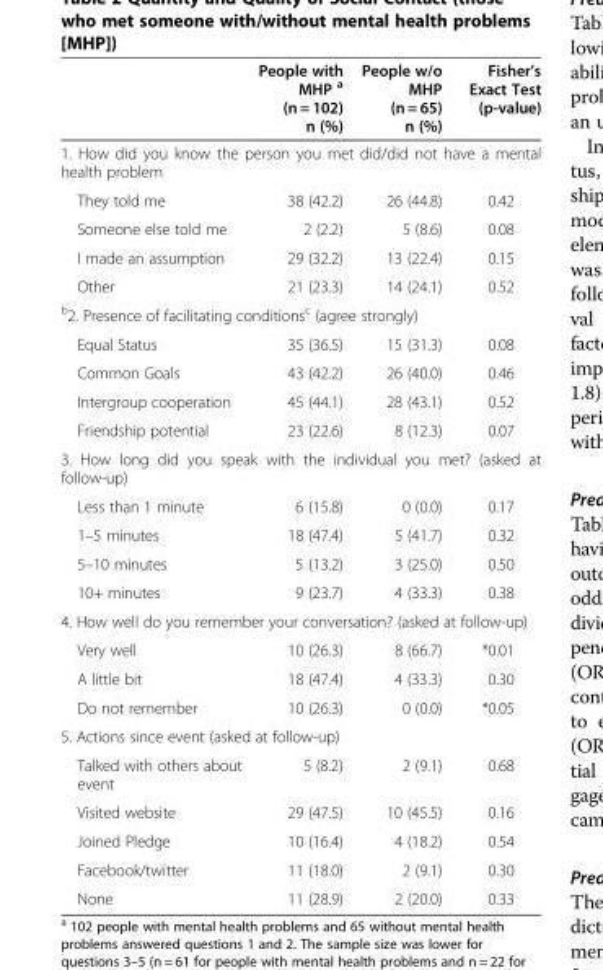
<table><thead><tr><td></td><td>People with MHP <sup>a</sup> (n = 102) n (%)</td><td>People w/o MHP (n = 65) n (%)</td><td>Fisher’s Exact Test (p-value)</td></tr></thead><tbody><tr><td colspan="4">1. How did you know the person you met did/did not have a mental health problem</td></tr><tr><td>They told me</td><td>38 (42.2)</td><td>26 (44.8)</td><td>0.42</td></tr><tr><td>Someone else told me</td><td>2 (2.2)</td><td>5 (8.6)</td><td>0.08</td></tr><tr><td>I made an assumption</td><td>29 (32.2)</td><td>13 (22.4)</td><td>0.15</td></tr><tr><td>Other</td><td>21 (23.3)</td><td>14 (24.1)</td><td>0.52</td></tr><tr><td colspan="4"><sup>b</sup>2. Presence of facilitating conditions<sup>c</sup> (agree strongly)</td></tr><tr><td>Equal Status</td><td>35 (36.5)</td><td>15 (31.3)</td><td>0.08</td></tr><tr><td>Common Goals</td><td>43 (42.2)</td><td>26 (40.0)</td><td>0.46</td></tr><tr><td>Intergroup cooperation</td><td>45 (44.1)</td><td>28 (43.1)</td><td>0.52</td></tr><tr><td>Friendship potential</td><td>23 (22.6)</td><td>8 (12.3)</td><td>0.07</td></tr><tr><td colspan="4">3. How long did you speak with the individual you met? (asked at follow-up)</td></tr><tr><td>Less than 1 minute</td><td>6 (15.8)</td><td>0 (0.0)</td><td>0.17</td></tr><tr><td>1–5 minutes</td><td>18 (47.4)</td><td>5 (41.7)</td><td>0.32</td></tr><tr><td>5–10 minutes</td><td>5 (13.2)</td><td>3 (25.0)</td><td>0.50</td></tr><tr><td>10+ minutes</td><td>9 (23.7)</td><td>4 (33.3)</td><td>0.38</td></tr><tr><td colspan="4">4. How well do you remember your conversation? (asked at follow-up)</td></tr><tr><td>Very well</td><td>10 (26.3)</td><td>8 (66.7)</td><td>*0.01</td></tr><tr><td>A little bit</td><td>18 (47.4)</td><td>4 (33.3)</td><td>0.30</td></tr><tr><td>Do not remember</td><td>10 (26.3)</td><td>0 (0.0)</td><td>*0.05</td></tr><tr><td colspan="4">5. Actions since event (asked at follow-up)</td></tr><tr><td>Talked with others about event</td><td>5 (8.2)</td><td>2 (9.1)</td><td>0.68</td></tr><tr><td>Visited website</td><td>29 (47.5)</td><td>10 (45.5)</td><td>0.16</td></tr><tr><td>Joined Pledge</td><td>10 (16.4)</td><td>4 (18.2)</td><td>0.54</td></tr><tr><td>Facebook/twitter</td><td>11 (18.0)</td><td>2 (9.1)</td><td>0.30</td></tr><tr><td>None</td><td>11 (28.9)</td><td>2 (20.0)</td><td>0.33</td></tr></tbody></table>